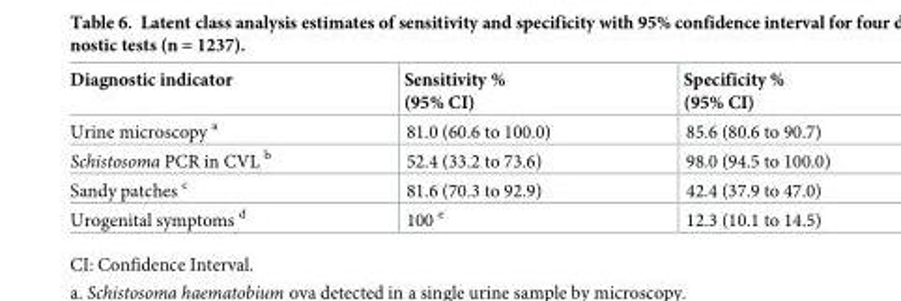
<table><thead><tr><td>Diagnostic indicator</td><td>Sensitivity % (95% CI)</td><td>Specificity % (95% CI)</td></tr></thead><tbody><tr><td>Urine microscopy <sup>a</sup></td><td>81.0 (60.6 to 100.0)</td><td>85.6 (80.6 to 90.7)</td></tr><tr><td>Schistosoma PCR in CVL <sup>b</sup></td><td>52.4 (33.2 to 73.6)</td><td>98.0 (94.5 to 100.0)</td></tr><tr><td>Sandy patches <sup>c</sup></td><td>81.6 (70.3 to 92.9)</td><td>42.4 (37.9 to 47.0)</td></tr><tr><td>Urogenital symptoms <sup>d</sup></td><td>100 <sup>e</sup></td><td>12.3 (10.1 to 14.5)</td></tr></tbody></table>